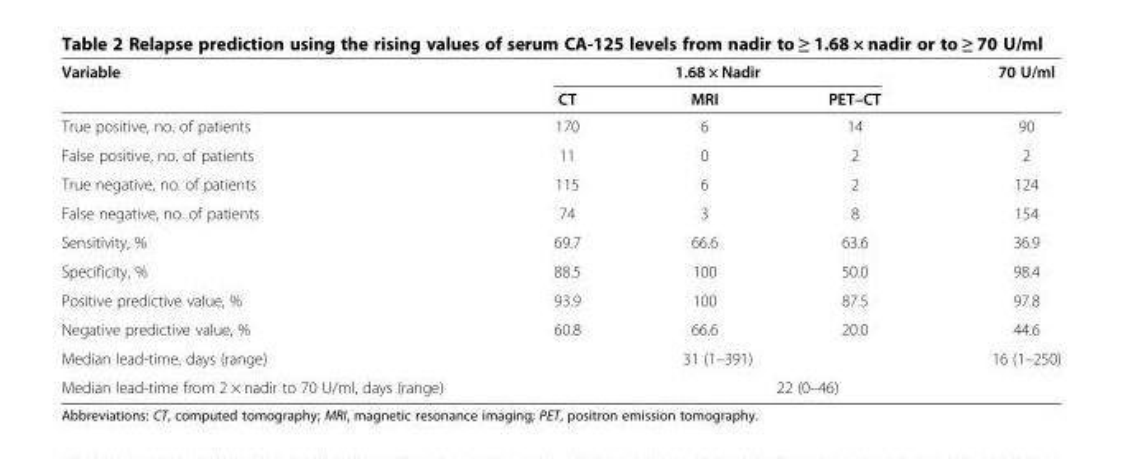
<table><thead><tr><td rowspan="2">Variable</td><td colspan="3">1.68 × Nadir</td><td rowspan="2">70 U/ml</td></tr><tr><td>CT</td><td>MRI</td><td>PET–CT</td></tr></thead><tbody><tr><td>True positive, no. of patients</td><td>170</td><td>6</td><td>14</td><td>90</td></tr><tr><td>False positive, no. of patients</td><td>11</td><td>0</td><td>2</td><td>2</td></tr><tr><td>True negative, no. of patients</td><td>115</td><td>6</td><td>2</td><td>124</td></tr><tr><td>False negative, no. of patients</td><td>74</td><td>3</td><td>8</td><td>154</td></tr><tr><td>Sensitivity, %</td><td>69.7</td><td>66.6</td><td>63.6</td><td>36.9</td></tr><tr><td>Specificity, %</td><td>88.5</td><td>100</td><td>50.0</td><td>98.4</td></tr><tr><td>Positive predictive value, %</td><td>93.9</td><td>100</td><td>87.5</td><td>97.8</td></tr><tr><td>Negative predictive value, %</td><td>60.8</td><td>66.6</td><td>20.0</td><td>44.6</td></tr><tr><td>Median lead-time, days (range)</td><td colspan="3">31 (1–391)</td><td>16 (1–250)</td></tr><tr><td>Median lead-time from 2 × nadir to 70 U/ml, days (range)</td><td colspan="4">22 (0–46)</td></tr></tbody></table>